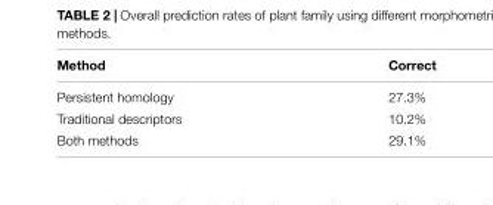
<table><thead><tr><td>Method</td><td>Correct</td></tr></thead><tbody><tr><td>Persistent homology</td><td>27.3%</td></tr><tr><td>Traditional descriptors</td><td>10.2%</td></tr><tr><td>Both methods</td><td>29.1%</td></tr></tbody></table>